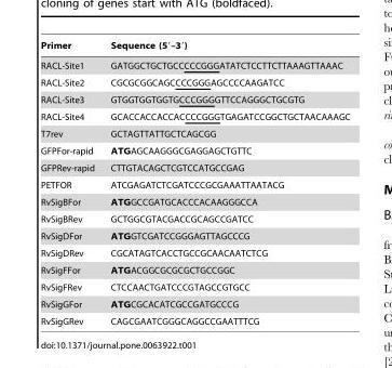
<table><thead><tr><td>Primer</td><td>Sequence (5′–3′)</td></tr></thead><tbody><tr><td>RACL-Site1</td><td>GATGGCTGCTGCCCCCGGGATATCTCCTTCTTAAAGTTAAAC</td></tr><tr><td>RACL-Site2</td><td>CGCGCGGCAGCCCCGGGAGCCCCAAGATCC</td></tr><tr><td>RACL-Site3</td><td>GTGGTGGTGGTGCCCGGGGTTCCAGGGCTGCGTG</td></tr><tr><td>RACL-Site4</td><td>GCACCACCACCACCCCGGGTGAGATCCGGCTGCTAACAAAGC</td></tr><tr><td>T7rev</td><td>GCTAGTTATTGCTCAGCGG</td></tr><tr><td>GFPFor-rapid</td><td>ATGAGCAAGGGCGAGGAGCTGTTC</td></tr><tr><td>GFPRev-rapid</td><td>CTTGTACAGCTCGTCCATGCCGAG</td></tr><tr><td>PETFOR</td><td>ATCGAGATCTCGATCCCGCGAAATTAATACG</td></tr><tr><td>RvSigBFor</td><td>ATGGCCGATGCACCCACAAGGGCCA</td></tr><tr><td>RvSigBRev</td><td>GCTGGCGTACGACCGCAGCCGATCC</td></tr><tr><td>RvSigDFor</td><td>ATGGTCGATCCGGGAGTTAGCCCG</td></tr><tr><td>RvSigDRev</td><td>CGCATAGTCACCTGCCGCAACAATCTCG</td></tr><tr><td>RvSigFFor</td><td>ATGACGGCGCGCGCTGCCGGC</td></tr><tr><td>RvSigFRev</td><td>CTCCAACTGATCCCGTAGCCGTGCC</td></tr><tr><td>RvSigGFor</td><td>ATGCGCACATCGCCGATGCCCG</td></tr><tr><td>RvSigGRev</td><td>CAGCGAATCGGGCAGGCCGAATTTCG</td></tr></tbody></table>